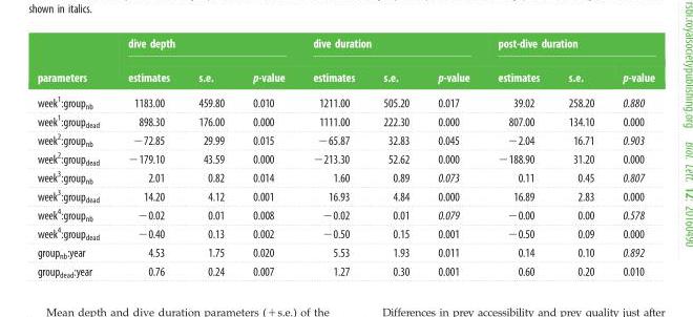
<table><thead><tr><td rowspan="2">parameters</td><td colspan="3">dive depth</td><td colspan="3">dive duration</td><td colspan="3">post-dive duration</td></tr><tr><td>estimates</td><td>s.e.</td><td>p-value</td><td>estimates</td><td>s.e.</td><td>p-value</td><td>estimates</td><td>s.e.</td><td>p-value</td></tr></thead><tbody><tr><td>week<sup>1</sup>:group<sub>nb</sub></td><td>1183.00</td><td>459.80</td><td>0.010</td><td>1211.00</td><td>505.20</td><td>0.017</td><td>39.02</td><td>258.20</td><td>0.880</td></tr><tr><td>week<sup>1</sup>:group<sub>dead</sub></td><td>898.30</td><td>176.00</td><td>0.000</td><td>1111.00</td><td>222.30</td><td>0.000</td><td>807.00</td><td>134.10</td><td>0.000</td></tr><tr><td>week<sup>2</sup>:group<sub>nb</sub></td><td>−72.85</td><td>29.99</td><td>0.015</td><td>−65.87</td><td>32.83</td><td>0.045</td><td>−2.04</td><td>16.71</td><td>0.903</td></tr><tr><td>week<sup>2</sup>:group<sub>dead</sub></td><td>−179.10</td><td>43.59</td><td>0.000</td><td>−213.30</td><td>52.62</td><td>0.000</td><td>−188.90</td><td>31.20</td><td>0.000</td></tr><tr><td>week<sup>3</sup>:group<sub>nb</sub></td><td>2.01</td><td>0.82</td><td>0.014</td><td>1.60</td><td>0.89</td><td>0.073</td><td>0.11</td><td>0.45</td><td>0.807</td></tr><tr><td>week<sup>3</sup>:group<sub>dead</sub></td><td>14.20</td><td>4.12</td><td>0.001</td><td>16.93</td><td>4.84</td><td>0.000</td><td>16.89</td><td>2.83</td><td>0.000</td></tr><tr><td>week<sup>4</sup>:group<sub>nb</sub></td><td>−0.02</td><td>0.01</td><td>0.008</td><td>−0.02</td><td>0.01</td><td>0.079</td><td>−0.00</td><td>0.00</td><td>0.578</td></tr><tr><td>week<sup>4</sup>:group<sub>dead</sub></td><td>−0.40</td><td>0.13</td><td>0.002</td><td>−0.50</td><td>0.15</td><td>0.001</td><td>−0.50</td><td>0.09</td><td>0.000</td></tr><tr><td>group<sub>nb</sub>:year</td><td>4.53</td><td>1.75</td><td>0.020</td><td>5.53</td><td>1.93</td><td>0.011</td><td>0.14</td><td>0.10</td><td>0.892</td></tr><tr><td>group<sub>dead</sub>:year</td><td>0.76</td><td>0.24</td><td>0.007</td><td>1.27</td><td>0.30</td><td>0.001</td><td>0.60</td><td>0.20</td><td>0.010</td></tr></tbody></table>